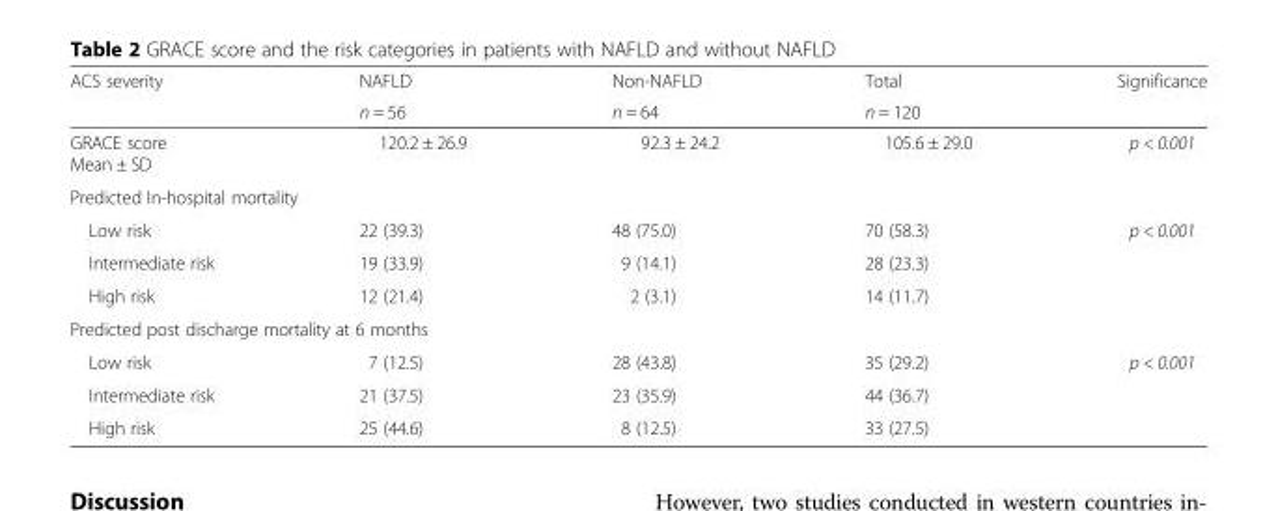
<table><thead><tr><td rowspan="2">ACS severity</td><td rowspan="2">NAFLD n = 56</td><td rowspan="2">Non-NAFLD n = 64</td><td rowspan="2">Total n = 120</td><td rowspan="2">Significance</td></tr><tr></tr></thead><tbody><tr><td>GRACE score Mean ± SD</td><td>120.2 ± 26.9</td><td>92.3 ± 24.2</td><td>105.6 ± 29.0</td><td>p &lt; 0.001</td></tr><tr><td colspan="5">Predicted In-hospital mortality</td></tr><tr><td>Low risk</td><td>22 (39.3)</td><td>48 (75.0)</td><td>70 (58.3)</td><td rowspan="3">p &lt; 0.001</td></tr><tr><td>Intermediate risk</td><td>19 (33.9)</td><td>9 (14.1)</td><td>28 (23.3)</td></tr><tr><td>High risk</td><td>12 (21.4)</td><td>2 (3.1)</td><td>14 (11.7)</td></tr><tr><td colspan="5">Predicted post discharge mortality at 6 months</td></tr><tr><td>Low risk</td><td>7 (12.5)</td><td>28 (43.8)</td><td>35 (29.2)</td><td rowspan="3">p &lt; 0.001</td></tr><tr><td>Intermediate risk</td><td>21 (37.5)</td><td>23 (35.9)</td><td>44 (36.7)</td></tr><tr><td>High risk</td><td>25 (44.6)</td><td>8 (12.5)</td><td>33 (27.5)</td></tr></tbody></table>